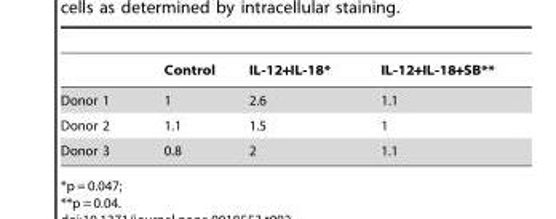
<table><thead><tr><td></td><td>Control</td><td>IL-12+IL-18*</td><td>IL-12+IL-18+SB**</td></tr></thead><tbody><tr><td>Donor 1</td><td>1</td><td>2.6</td><td>1.1</td></tr><tr><td>Donor 2</td><td>1.1</td><td>1.5</td><td>1</td></tr><tr><td>Donor 3</td><td>0.8</td><td>2</td><td>1.1</td></tr></tbody></table>